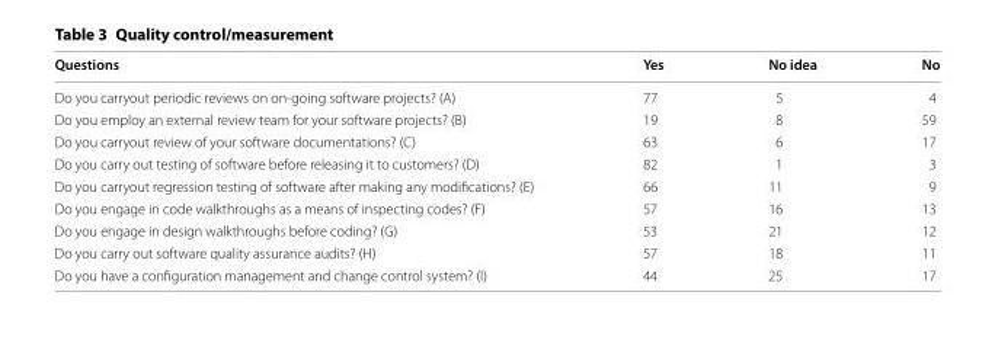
<table><thead><tr><td>Questions</td><td>Yes</td><td>No idea</td><td>No</td></tr></thead><tbody><tr><td>Do you carryout periodic reviews on on‑going software projects? (A)</td><td>77</td><td>5</td><td>4</td></tr><tr><td>Do you employ an external review team for your software projects? (B)</td><td>19</td><td>8</td><td>59</td></tr><tr><td>Do you carryout review of your software documentations? (C)</td><td>63</td><td>6</td><td>17</td></tr><tr><td>Do you carry out testing of software before releasing it to customers? (D)</td><td>82</td><td>1</td><td>3</td></tr><tr><td>Do you carryout regression testing of software after making any modifications? (E)</td><td>66</td><td>11</td><td>9</td></tr><tr><td>Do you engage in code walkthroughs as a means of inspecting codes? (F)</td><td>57</td><td>16</td><td>13</td></tr><tr><td>Do you engage in design walkthroughs before coding? (G)</td><td>53</td><td>21</td><td>12</td></tr><tr><td>Do you carry out software quality assurance audits? (H)</td><td>57</td><td>18</td><td>11</td></tr><tr><td>Do you have a configuration management and change control system? (I)</td><td>44</td><td>25</td><td>17</td></tr></tbody></table>